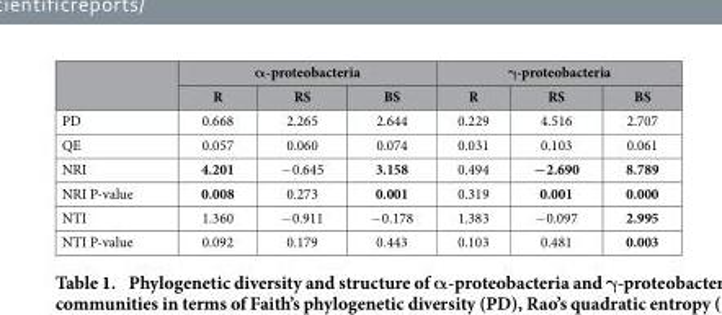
<table><thead><tr><td rowspan="2"></td><td colspan="3">α-proteobacteria</td><td colspan="3">γ-proteobacteria</td></tr><tr><td>R</td><td>RS</td><td>BS</td><td>R</td><td>RS</td><td>BS</td></tr></thead><tbody><tr><td>PD</td><td>0.668</td><td>2.265</td><td>2.644</td><td>0.229</td><td>4.516</td><td>2.707</td></tr><tr><td>QE</td><td>0.057</td><td>0.060</td><td>0.074</td><td>0.031</td><td>0.103</td><td>0.061</td></tr><tr><td>NRI</td><td>4.201</td><td>− 0.645</td><td>3.158</td><td>0.494</td><td>−2.690</td><td>8.789</td></tr><tr><td>NRI P-value</td><td>0.008</td><td>0.273</td><td>0.001</td><td>0.319</td><td>0.001</td><td>0.000</td></tr><tr><td>NTI</td><td>1.360</td><td>− 0.911</td><td>− 0.178</td><td>1.383</td><td>− 0.097</td><td>2.995</td></tr><tr><td>NTI P-value</td><td>0.092</td><td>0.179</td><td>0.443</td><td>0.103</td><td>0.481</td><td>0.003</td></tr></tbody></table>